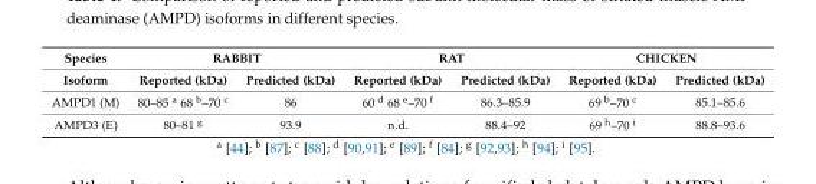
<table><thead><tr><td rowspan="2">Species Isoform</td><td colspan="2">RABBIT</td><td colspan="2">RAT</td><td colspan="2">CHICKEN</td></tr><tr><td>Reported (kDa)</td><td>Predicted (kDa)</td><td>Reported (kDa)</td><td>Predicted (kDa)</td><td>Reported (kDa)</td><td>Predicted (kDa)</td></tr></thead><tbody><tr><td>AMPD1 (M)</td><td>80–85 <sup>a</sup> 68 <sup>b</sup>–70 <sup>c</sup></td><td>86</td><td>60 <sup>d</sup> 68 <sup>e</sup>–70 <sup>f</sup></td><td>86.3–85.9</td><td>69 <sup>b</sup>–70 <sup>c</sup></td><td>85.1–85.6</td></tr><tr><td>AMPD3 (E)</td><td>80–81 <sup>g</sup></td><td>93.9</td><td>n.d.</td><td>88.4–92</td><td>69 <sup>h</sup>–70 <sup>i</sup></td><td>88.8–93.6</td></tr></tbody></table>